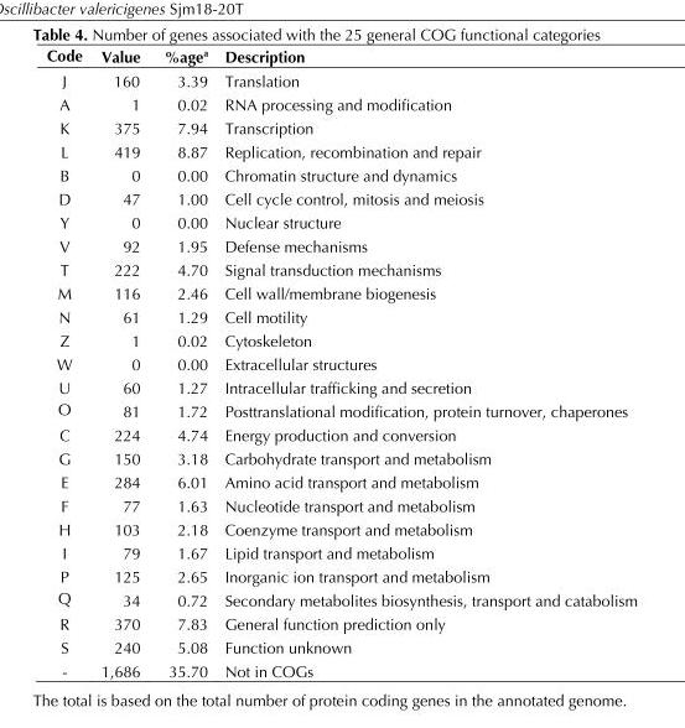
<table><thead><tr><td>Code</td><td>Value</td><td>%age<sup>a</sup></td><td>Description</td></tr></thead><tbody><tr><td>J</td><td>160</td><td>3.39</td><td>Translation</td></tr><tr><td>A</td><td>1</td><td>0.02</td><td>RNA processing and modification</td></tr><tr><td>K</td><td>375</td><td>7.94</td><td>Transcription</td></tr><tr><td>L</td><td>419</td><td>8.87</td><td>Replication, recombination and repair</td></tr><tr><td>B</td><td>0</td><td>0.00</td><td>Chromatin structure and dynamics</td></tr><tr><td>D</td><td>47</td><td>1.00</td><td>Cell cycle control, mitosis and meiosis</td></tr><tr><td>Y</td><td>0</td><td>0.00</td><td>Nuclear structure</td></tr><tr><td>V</td><td>92</td><td>1.95</td><td>Defense mechanisms</td></tr><tr><td>T</td><td>222</td><td>4.70</td><td>Signal transduction mechanisms</td></tr><tr><td>M</td><td>116</td><td>2.46</td><td>Cell wall/membrane biogenesis</td></tr><tr><td>N</td><td>61</td><td>1.29</td><td>Cell motility</td></tr><tr><td>Z</td><td>1</td><td>0.02</td><td>Cytoskeleton</td></tr><tr><td>W</td><td>0</td><td>0.00</td><td>Extracellular structures</td></tr><tr><td>U</td><td>60</td><td>1.27</td><td>Intracellular trafficking and secretion</td></tr><tr><td>O</td><td>81</td><td>1.72</td><td>Posttranslational modification, protein turnover, chaperones</td></tr><tr><td>C</td><td>224</td><td>4.74</td><td>Energy production and conversion</td></tr><tr><td>G</td><td>150</td><td>3.18</td><td>Carbohydrate transport and metabolism</td></tr><tr><td>E</td><td>284</td><td>6.01</td><td>Amino acid transport and metabolism</td></tr><tr><td>F</td><td>77</td><td>1.63</td><td>Nucleotide transport and metabolism</td></tr><tr><td>H</td><td>103</td><td>2.18</td><td>Coenzyme transport and metabolism</td></tr><tr><td>I</td><td>79</td><td>1.67</td><td>Lipid transport and metabolism</td></tr><tr><td>P</td><td>125</td><td>2.65</td><td>Inorganic ion transport and metabolism</td></tr><tr><td>Q</td><td>34</td><td>0.72</td><td>Secondary metabolites biosynthesis, transport and catabolism</td></tr><tr><td>R</td><td>370</td><td>7.83</td><td>General function prediction only</td></tr><tr><td>S</td><td>240</td><td>5.08</td><td>Function unknown</td></tr><tr><td>-</td><td>1,686</td><td>35.70</td><td>Not in COGs</td></tr></tbody></table>